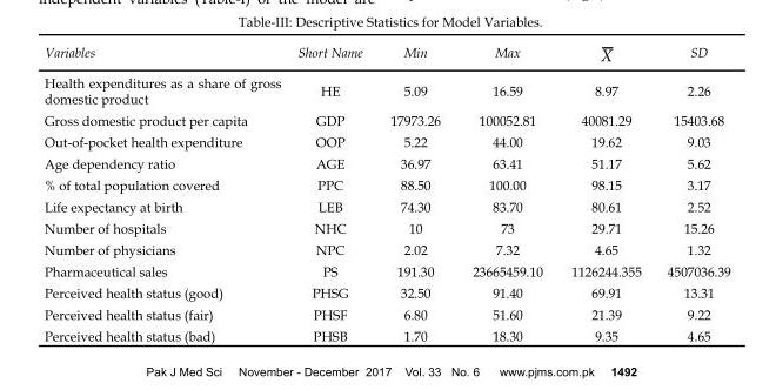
<table><thead><tr><td>Variables</td><td>Short Name</td><td>Min</td><td>Max</td><td></td><td>SD</td></tr></thead><tbody><tr><td>Health expenditures as a share of gross domestic product</td><td>HE</td><td>5.09</td><td>16.59</td><td>8.97</td><td>2.26</td></tr><tr><td>Gross domestic product per capita</td><td>GDP</td><td>17973.26</td><td>100052.81</td><td>40081.29</td><td>15403.68</td></tr><tr><td>Out-of-pocket health expenditure</td><td>OOP</td><td>5.22</td><td>44.00</td><td>19.62</td><td>9.03</td></tr><tr><td>Age dependency ratio</td><td>AGE</td><td>36.97</td><td>63.41</td><td>51.17</td><td>5.62</td></tr><tr><td>% of total population covered</td><td>PPC</td><td>88.50</td><td>100.00</td><td>98.15</td><td>3.17</td></tr><tr><td>Life expectancy at birth</td><td>LEB</td><td>74.30</td><td>83.70</td><td>80.61</td><td>2.52</td></tr><tr><td>Number of hospitals</td><td>NHC</td><td>10</td><td>73</td><td>29.71</td><td>15.26</td></tr><tr><td>Number of physicians</td><td>NPC</td><td>2.02</td><td>7.32</td><td>4.65</td><td>1.32</td></tr><tr><td>Pharmaceutical sales</td><td>PS</td><td>191.30</td><td>23665459.10</td><td>1126244.355</td><td>4507036.39</td></tr><tr><td>Perceived health status (good)</td><td>PHSG</td><td>32.50</td><td>91.40</td><td>69.91</td><td>13.31</td></tr><tr><td>Perceived health status (fair)</td><td>PHSF</td><td>6.80</td><td>51.60</td><td>21.39</td><td>9.22</td></tr><tr><td>Perceived health status (bad)</td><td>PHSB</td><td>1.70</td><td>18.30</td><td>9.35</td><td>4.65</td></tr></tbody></table>